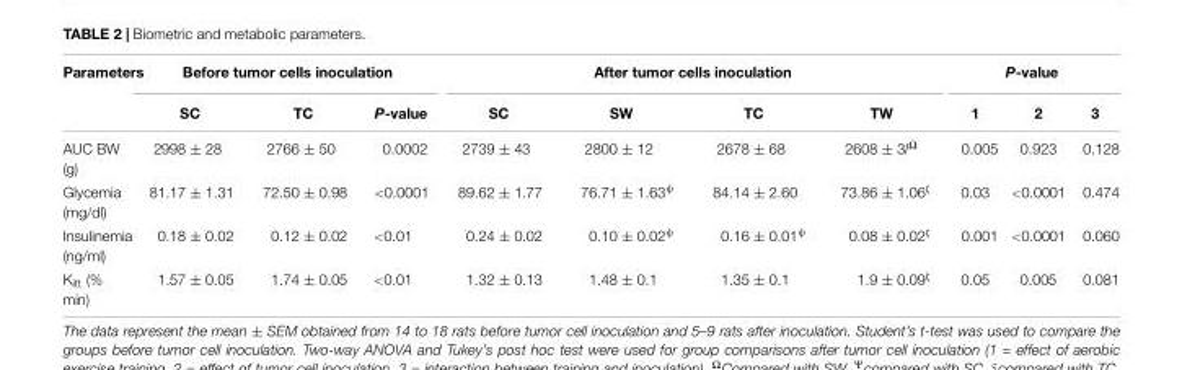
<table><thead><tr><td rowspan="2">Parameters</td><td colspan="3">Before tumor cells inoculation</td><td colspan="4">After tumor cells inoculation</td><td colspan="3">P-value</td></tr><tr><td>SC</td><td>TC</td><td>P-value</td><td>SC</td><td>SW</td><td>TC</td><td>TW</td><td>1</td><td>2</td><td>3</td></tr></thead><tbody><tr><td>AUC BW (g)</td><td>2998 ± 28</td><td>2766 ± 50</td><td>0.0002</td><td>2739 ± 43</td><td>2800 ± 12</td><td>2678 ± 68</td><td>2608 ± 3l<sup>Ω</sup></td><td>0.005</td><td>0.923</td><td>0.128</td></tr><tr><td>Glycemia (mg/dl)</td><td>81.17 ± 1.31</td><td>72.50 ± 0.98</td><td>&lt;0.0001</td><td>89.62 ± 1.77</td><td>76.71 ± 1.63<sup>ψ</sup></td><td>84.14 ± 2.60</td><td>73.86 ± 1.06<sup>ζ</sup></td><td>0.03</td><td>&lt;0.0001</td><td>0.474</td></tr><tr><td>Insulinemia (ng/ml)</td><td>0.18 ± 0.02</td><td>0.12 ± 0.02</td><td>&lt;0.01</td><td>0.24 ± 0.02</td><td>0.10 ± 0.02<sup>ψ</sup></td><td>0.16 ± 0.01<sup>ψ</sup></td><td>0.08 ± 0.02<sup>ζ</sup></td><td>0.001</td><td>&lt;0.0001</td><td>0.060</td></tr><tr><td>K<sub>itt</sub> (% min)</td><td>1.57 ± 0.05</td><td>1.74 ± 0.05</td><td>&lt;0.01</td><td>1.32 ± 0.13</td><td>1.48 ± 0.1</td><td>1.35 ± 0.1</td><td>1.9 ± 0.09<sup>ζ</sup></td><td>0.05</td><td>0.005</td><td>0.081</td></tr></tbody></table>